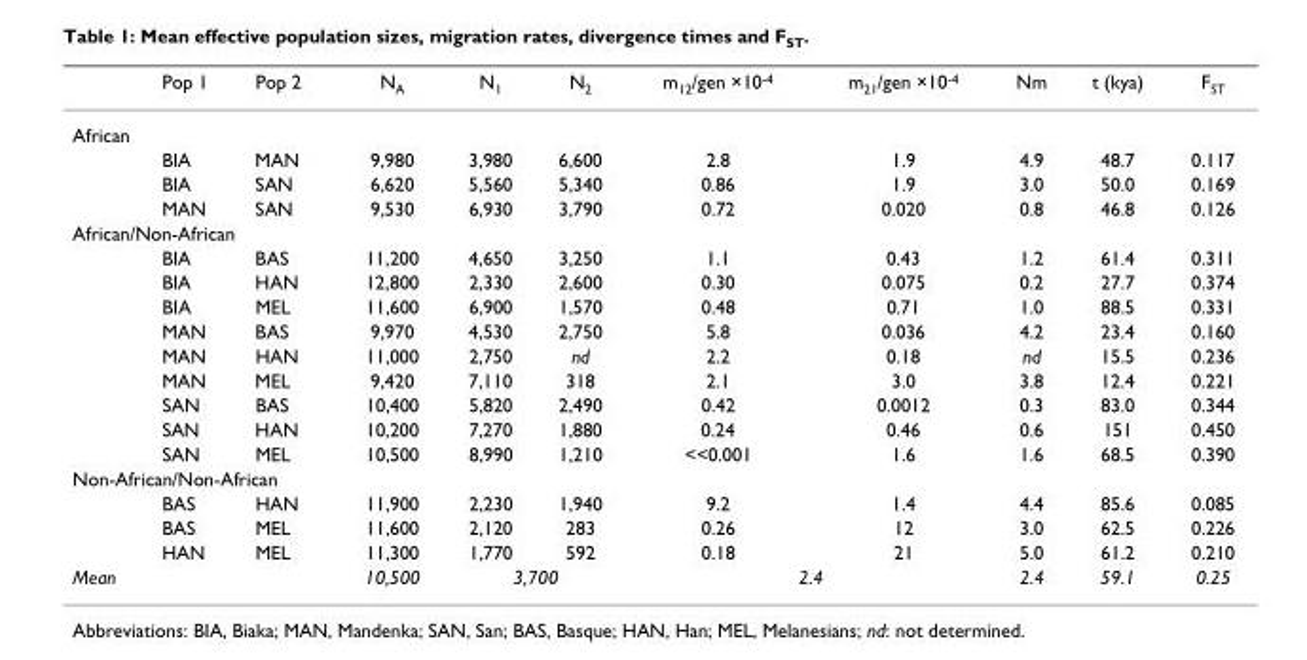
<table><thead><tr><td></td><td>Pop 1</td><td>Pop 2</td><td>N<sub>A</sub></td><td>N<sub>1</sub></td><td>N<sub>2</sub></td><td>m<sub>12</sub>/gen ×10<sup>-4</sup></td><td>m<sub>21</sub>/gen ×10<sup>-4</sup></td><td>Nm</td><td>t (kya)</td><td>F<sub>ST</sub></td></tr></thead><tbody><tr><td colspan="11">African</td></tr><tr><td></td><td>BIA</td><td>MAN</td><td>9,980</td><td>3,980</td><td>6,600</td><td>2.8</td><td>1.9</td><td>4.9</td><td>48.7</td><td>0.117</td></tr><tr><td></td><td>BIA</td><td>SAN</td><td>6,620</td><td>5,560</td><td>5,340</td><td>0.86</td><td>1.9</td><td>3.0</td><td>50.0</td><td>0.169</td></tr><tr><td></td><td>MAN</td><td>SAN</td><td>9,530</td><td>6,930</td><td>3,790</td><td>0.72</td><td>0.020</td><td>0.8</td><td>46.8</td><td>0.126</td></tr><tr><td colspan="11">African/Non-African</td></tr><tr><td></td><td>BIA</td><td>BAS</td><td>11,200</td><td>4,650</td><td>3,250</td><td>1.1</td><td>0.43</td><td>1.2</td><td>61.4</td><td>0.311</td></tr><tr><td></td><td>BIA</td><td>HAN</td><td>12,800</td><td>2,330</td><td>2,600</td><td>0.30</td><td>0.075</td><td>0.2</td><td>27.7</td><td>0.374</td></tr><tr><td></td><td>BIA</td><td>MEL</td><td>11,600</td><td>6,900</td><td>1,570</td><td>0.48</td><td>0.71</td><td>1.0</td><td>88.5</td><td>0.331</td></tr><tr><td></td><td>MAN</td><td>BAS</td><td>9,970</td><td>4,530</td><td>2,750</td><td>5.8</td><td>0.036</td><td>4.2</td><td>23.4</td><td>0.160</td></tr><tr><td></td><td>MAN</td><td>HAN</td><td>11,000</td><td>2,750</td><td>nd</td><td>2.2</td><td>0.18</td><td>nd</td><td>15.5</td><td>0.236</td></tr><tr><td></td><td>MAN</td><td>MEL</td><td>9,420</td><td>7,110</td><td>318</td><td>2.1</td><td>3.0</td><td>3.8</td><td>12.4</td><td>0.221</td></tr><tr><td></td><td>SAN</td><td>BAS</td><td>10,400</td><td>5,820</td><td>2,490</td><td>0.42</td><td>0.0012</td><td>0.3</td><td>83.0</td><td>0.344</td></tr><tr><td></td><td>SAN</td><td>HAN</td><td>10,200</td><td>7,270</td><td>1,880</td><td>0.24</td><td>0.46</td><td>0.6</td><td>151</td><td>0.450</td></tr><tr><td></td><td>SAN</td><td>MEL</td><td>10,500</td><td>8,990</td><td>1,210</td><td>&lt;&lt;0.001</td><td>1.6</td><td>1.6</td><td>68.5</td><td>0.390</td></tr><tr><td colspan="11">Non-African/Non-African</td></tr><tr><td></td><td>BAS</td><td>HAN</td><td>11,900</td><td>2,230</td><td>1,940</td><td>9.2</td><td>1.4</td><td>4.4</td><td>85.6</td><td>0.085</td></tr><tr><td></td><td>BAS</td><td>MEL</td><td>11,600</td><td>2,120</td><td>283</td><td>0.26</td><td>12</td><td>3.0</td><td>62.5</td><td>0.226</td></tr><tr><td></td><td>HAN</td><td>MEL</td><td>11,300</td><td>1,770</td><td>592</td><td>0.18</td><td>21</td><td>5.0</td><td>61.2</td><td>0.210</td></tr><tr><td>Mean</td><td></td><td></td><td>10,500</td><td colspan="2">3,700</td><td colspan="2">2.4</td><td>2.4</td><td>59.1</td><td>0.25</td></tr></tbody></table>